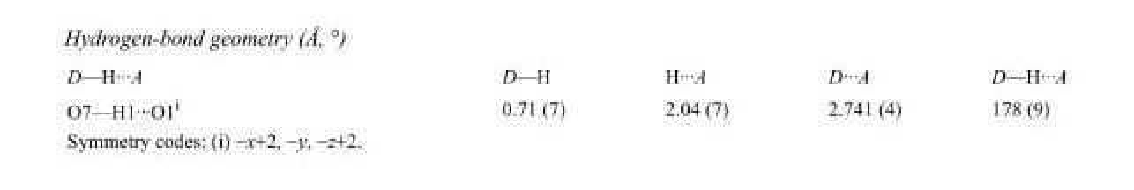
<table><tbody><tr><td>D—H···A</td><td>D—H</td><td>H···A</td><td>D···A</td><td>D—H···A</td></tr><tr><td>O7—H1···O1<sup>i</sup></td><td>0.71 (7)</td><td>2.04 (7)</td><td>2.741 (4)</td><td>178 (9)</td></tr></tbody></table>